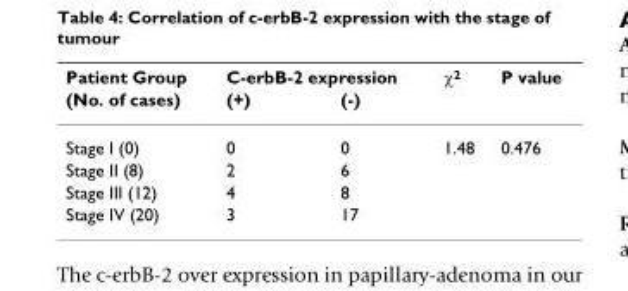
<table><thead><tr><td rowspan="2">Patient Group (No. of cases)</td><td colspan="2">C-erbB-2 expression</td><td rowspan="2">χ2</td><td rowspan="2">P value</td></tr><tr><td>(+)</td><td>(-)</td></tr></thead><tbody><tr><td>Stage I (0)</td><td>0</td><td>0</td><td>1.48</td><td>0.476</td></tr><tr><td>Stage II (8)</td><td>2</td><td>6</td><td></td><td></td></tr><tr><td>Stage III (12)</td><td>4</td><td>8</td><td></td><td></td></tr><tr><td>Stage IV (20)</td><td>3</td><td>17</td><td></td><td></td></tr></tbody></table>